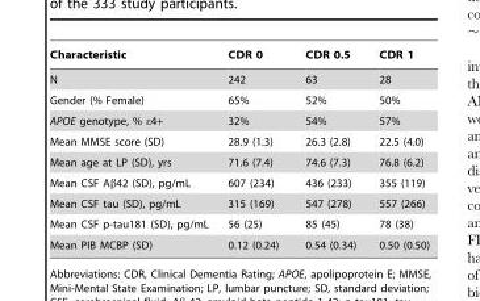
<table><thead><tr><td>Characteristic</td><td>CDR 0</td><td>CDR 0.5</td><td>CDR 1</td></tr></thead><tbody><tr><td>N</td><td>242</td><td>63</td><td>28</td></tr><tr><td>Gender (% Female)</td><td>65%</td><td>52%</td><td>50%</td></tr><tr><td>APOE genotype, % ε4+</td><td>32%</td><td>54%</td><td>57%</td></tr><tr><td>Mean MMSE score (SD)</td><td>28.9 (1.3)</td><td>26.3 (2.8)</td><td>22.5 (4.0)</td></tr><tr><td>Mean age at LP (SD), yrs</td><td>71.6 (7.4)</td><td>74.6 (7.3)</td><td>76.8 (6.2)</td></tr><tr><td>Mean CSF Aβ42 (SD), pg/mL</td><td>607 (234)</td><td>436 (233)</td><td>355 (119)</td></tr><tr><td>Mean CSF tau (SD), pg/mL</td><td>315 (169)</td><td>547 (278)</td><td>557 (266)</td></tr><tr><td>Mean CSF p-tau181 (SD), pg/mL</td><td>56 (25)</td><td>85 (45)</td><td>78 (38)</td></tr><tr><td>Mean PIB MCBP (SD)</td><td>0.12 (0.24)</td><td>0.54 (0.34)</td><td>0.50 (0.50)</td></tr></tbody></table>